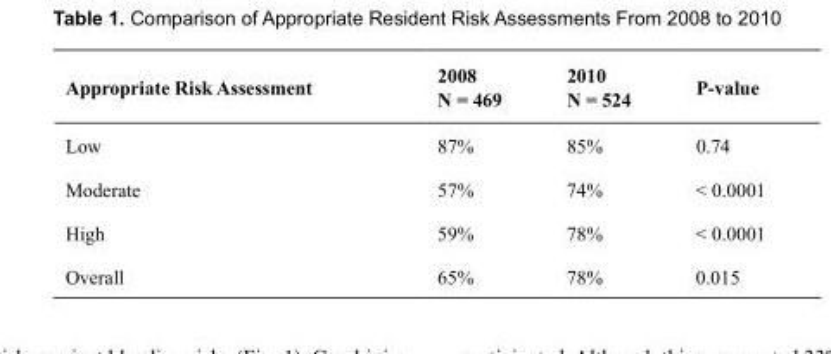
<table><thead><tr><td rowspan="2">Appropriate Risk Assessment</td><td rowspan="2">2008 N = 469</td><td rowspan="2">2010 N = 524</td><td rowspan="2">P-value</td></tr><tr></tr></thead><tbody><tr><td>Low</td><td>87%</td><td>85%</td><td>0.74</td></tr><tr><td>Moderate</td><td>57%</td><td>74%</td><td>&lt; 0.0001</td></tr><tr><td>High</td><td>59%</td><td>78%</td><td>&lt; 0.0001</td></tr><tr><td>Overall</td><td>65%</td><td>78%</td><td>0.015</td></tr></tbody></table>